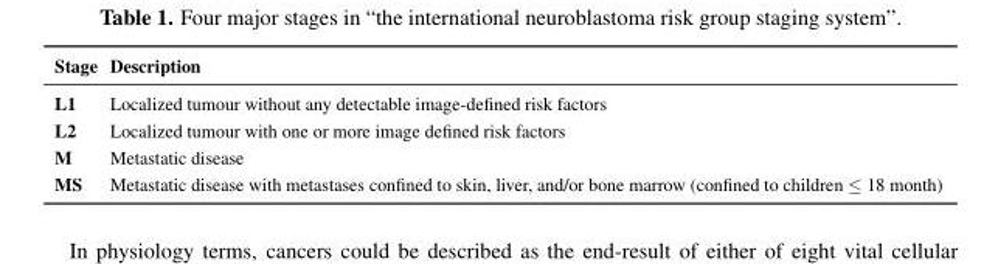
<table><thead><tr><td>Stage</td><td>Description</td></tr></thead><tbody><tr><td>L1</td><td>Localized tumour without any detectable image-defined risk factors</td></tr><tr><td>L2</td><td>Localized tumour with one or more image defined risk factors</td></tr><tr><td>M</td><td>Metastatic disease</td></tr><tr><td>MS</td><td>Metastatic disease with metastases confined to skin, liver, and/or bone marrow (confined to children ≤ 18 month)</td></tr></tbody></table>